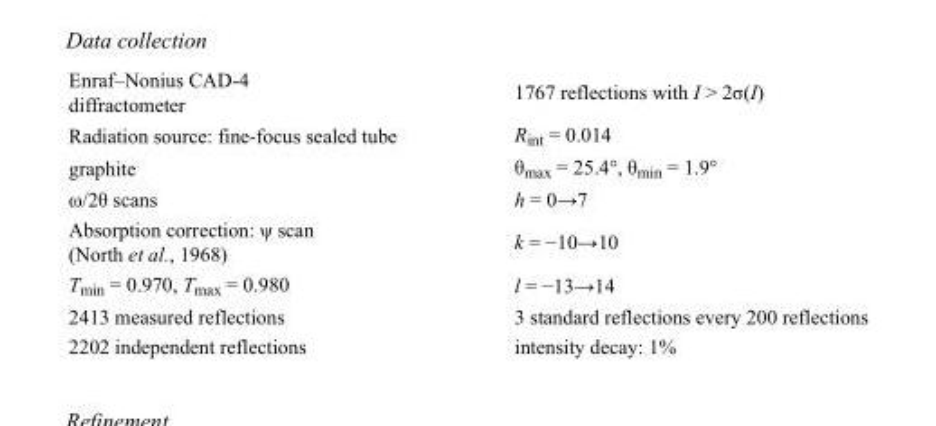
<table><tbody><tr><td>Enraf–Nonius CAD-4 diffractometer</td><td>1767 reflections with I &gt; 2σ(I)</td></tr><tr><td>Radiation source: fine-focus sealed tube</td><td>R<sub>int</sub> = 0.014</td></tr><tr><td>graphite</td><td>θ<sub>max</sub> = 25.4°, θ<sub>min</sub> = 1.9°</td></tr><tr><td>ω/2θ scans</td><td>h = 0→7</td></tr><tr><td>Absorption correction: ψ scan (North et al., 1968)</td><td>k = −10→10</td></tr><tr><td>T<sub>min</sub> = 0.970, T<sub>max</sub> = 0.980</td><td>l = −13→14</td></tr><tr><td>2413 measured reflections</td><td>3 standard reflections every 200 reflections</td></tr><tr><td>2202 independent reflections</td><td>intensity decay: 1%</td></tr></tbody></table>